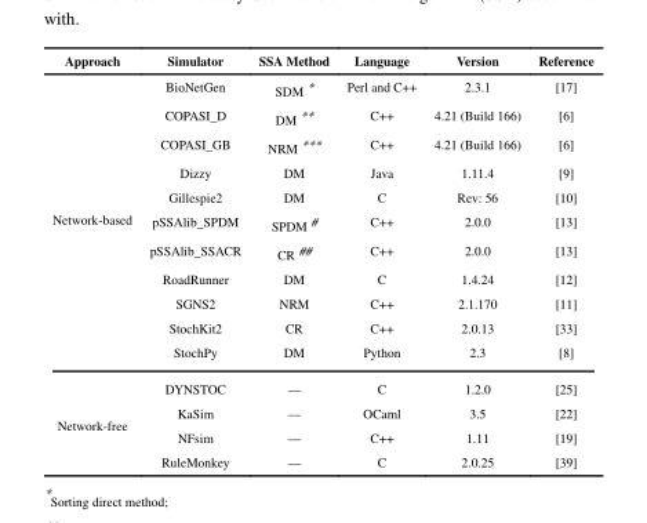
<table><thead><tr><td>Approach</td><td>Simulator</td><td>SSA Method</td><td>Language</td><td>Version</td><td>Reference</td></tr></thead><tbody><tr><td rowspan="11">Network-based</td><td>BioNetGen</td><td>SDM *</td><td>Perl and C++</td><td>2.3.1</td><td>[17]</td></tr><tr><td>COPASI_D</td><td>DM **</td><td>C++</td><td>4.21 (Build 166)</td><td>[6]</td></tr><tr><td>COPASI_GB</td><td>NRM ***</td><td>C++</td><td>4.21 (Build 166)</td><td>[6]</td></tr><tr><td>Dizzy</td><td>DM</td><td>Java</td><td>1.11.4</td><td>[9]</td></tr><tr><td>Gillespie2</td><td>DM</td><td>C</td><td>Rev: 56</td><td>[10]</td></tr><tr><td>pSSAlib_SPDM</td><td>SPDM #</td><td>C++</td><td>2.0.0</td><td>[13]</td></tr><tr><td>pSSAlib_SSACR</td><td>CR ##</td><td>C++</td><td>2.0.0</td><td>[13]</td></tr><tr><td>RoadRunner</td><td>DM</td><td>C</td><td>1.4.24</td><td>[12]</td></tr><tr><td>SGNS2</td><td>NRM</td><td>C++</td><td>2.1.170</td><td>[11]</td></tr><tr><td>StochKit2</td><td>CR</td><td>C++</td><td>2.0.13</td><td>[33]</td></tr><tr><td>StochPy</td><td>DM</td><td>Python</td><td>2.3</td><td>[8]</td></tr><tr><td rowspan="4">Network-free</td><td>DYNSTOC</td><td>—</td><td>C</td><td>1.2.0</td><td>[25]</td></tr><tr><td>KaSim</td><td>—</td><td>OCaml</td><td>3.5</td><td>[22]</td></tr><tr><td>NFsim</td><td>—</td><td>C++</td><td>1.11</td><td>[19]</td></tr><tr><td>RuleMonkey</td><td>—</td><td>C</td><td>2.0.25</td><td>[39]</td></tr></tbody></table>